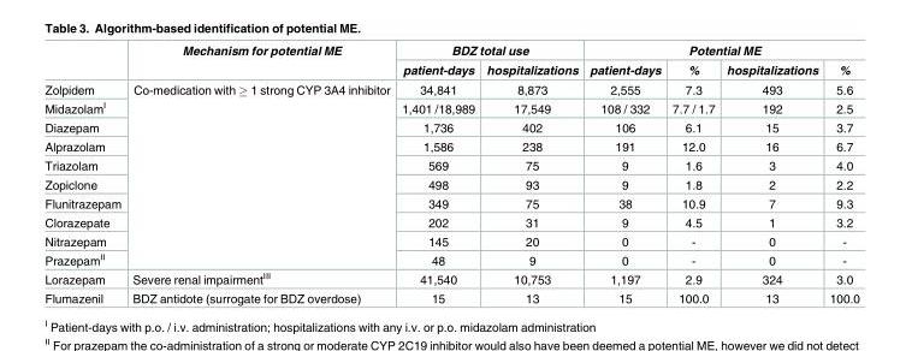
<table><thead><tr><td rowspan="2"></td><td rowspan="2">Mechanism for potential ME</td><td colspan="2">BDZ total use</td><td colspan="4">Potential ME</td></tr><tr><td>patient-days</td><td>hospitalizations</td><td>patient-days</td><td>%</td><td>hospitalizations</td><td>%</td></tr></thead><tbody><tr><td>Zolpidem</td><td rowspan="10">Co-medication with ≥ 1 strong CYP 3A4 inhibitor</td><td>34,841</td><td>8,873</td><td>2,555</td><td>7.3</td><td>493</td><td>5.6</td></tr><tr><td>Midazolam<sup>I</sup></td><td>1,401 /18,989</td><td>17,549</td><td>108 / 332</td><td>7.7 / 1.7</td><td>192</td><td>2.5</td></tr><tr><td>Diazepam</td><td>1,736</td><td>402</td><td>106</td><td>6.1</td><td>15</td><td>3.7</td></tr><tr><td>Alprazolam</td><td>1,586</td><td>238</td><td>191</td><td>12.0</td><td>16</td><td>6.7</td></tr><tr><td>Triazolam</td><td>569</td><td>75</td><td>9</td><td>1.6</td><td>3</td><td>4.0</td></tr><tr><td>Zopiclone</td><td>498</td><td>93</td><td>9</td><td>1.8</td><td>2</td><td>2.2</td></tr><tr><td>Flunitrazepam</td><td>349</td><td>75</td><td>38</td><td>10.9</td><td>7</td><td>9.3</td></tr><tr><td>Clorazepate</td><td>202</td><td>31</td><td>9</td><td>4.5</td><td>1</td><td>3.2</td></tr><tr><td>Nitrazepam</td><td>145</td><td>20</td><td>0</td><td>-</td><td>0</td><td>-</td></tr><tr><td>Prazepam<sup>II</sup></td><td>48</td><td>9</td><td>0</td><td>-</td><td>0</td><td>-</td></tr><tr><td>Lorazepam</td><td>Severe renal impairment<sup>III</sup></td><td>41,540</td><td>10,753</td><td>1,197</td><td>2.9</td><td>324</td><td>3.0</td></tr><tr><td>Flumazenil</td><td>BDZ antidote (surrogate for BDZ overdose)</td><td>15</td><td>13</td><td>15</td><td>100.0</td><td>13</td><td>100.0</td></tr></tbody></table>